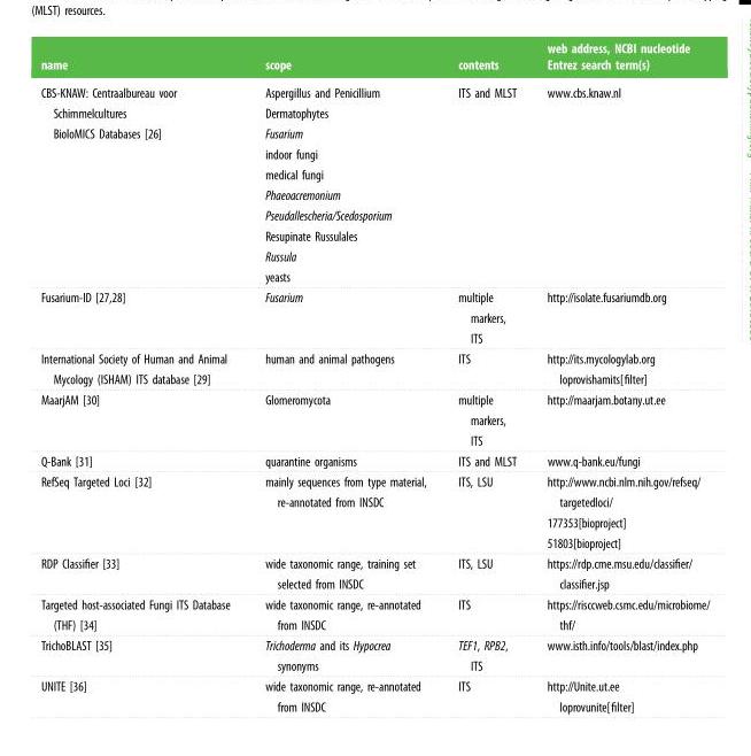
<table><thead><tr><td>name</td><td>scope</td><td>contents</td><td>web address, NCBI nucleotide Entrez search term(s)</td></tr></thead><tbody><tr><td>CBS-KNAW: Centraalbureau voor Schimmelcultures BioloMICS Databases [26]</td><td>Aspergillus and Penicillium Dermatophytes Fusarium indoor fungi medical fungi Phaeoacremonium Pseudallescheria/Scedosporium Resupinate Russulales Russula yeasts</td><td>ITS and MLST</td><td>www.cbs.knaw.nl</td></tr><tr><td>Fusarium-ID [27,28]</td><td>Fusarium</td><td>multiple markers, ITS</td><td>http://isolate.fusariumdb.org</td></tr><tr><td>International Society of Human and Animal Mycology (ISHAM) ITS database [29]</td><td>human and animal pathogens</td><td>ITS</td><td>http://its.mycologylab.org loprovishamits[filter]</td></tr><tr><td>MaarjAM [30]</td><td>Glomeromycota</td><td>multiple markers, ITS</td><td>http://maarjam.botany.ut.ee</td></tr><tr><td>Q-Bank [31]</td><td>quarantine organisms</td><td>ITS and MLST</td><td>www.q-bank.eu/fungi</td></tr><tr><td>RefSeq Targeted Loci [32]</td><td>mainly sequences from type material, re-annotated from INSDC</td><td>ITS, LSU</td><td>http://www.ncbi.nlm.nih.gov/refseq/ targetedloci/ 177353[bioproject] 51803[bioproject]</td></tr><tr><td>RDP Classifier [33]</td><td>wide taxonomic range, training set selected from INSDC</td><td>ITS, LSU</td><td>https://rdp.cme.msu.edu/classifier/ classifier.jsp</td></tr><tr><td>Targeted host-associated Fungi ITS Database (THF) [34]</td><td>wide taxonomic range, re-annotated from INSDC</td><td>ITS</td><td>https://risccweb.csmc.edu/microbiome/ thf/</td></tr><tr><td>TrichoBLAST [35]</td><td>Trichoderma and its Hypocrea synonyms</td><td>TEF1, RPB2, ITS</td><td>www.isth.info/tools/blast/index.php</td></tr><tr><td>UNITE [36]</td><td>wide taxonomic range, re-annotated from INSDC</td><td>ITS</td><td>http://Unite.ut.ee loprovunite[filter]</td></tr></tbody></table>